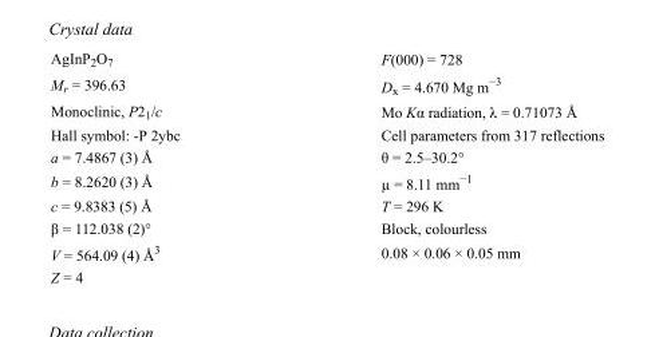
<table><tbody><tr><td>AgInP<sub>2</sub>O<sub>7</sub></td><td>F(000) = 728</td></tr><tr><td>M<sub>r</sub> = 396.63</td><td>D<sub>x</sub> = 4.670 Mg m<sup>−3</sup></td></tr><tr><td>Monoclinic, P2<sub>1</sub>/c</td><td>Mo Kα radiation, λ = 0.71073 Å</td></tr><tr><td>Hall symbol: -P 2ybc</td><td>Cell parameters from 317 reflections</td></tr><tr><td>a = 7.4867 (3) Å</td><td>θ = 2.5–30.2°</td></tr><tr><td>b = 8.2620 (3) Å</td><td>µ = 8.11 mm<sup>−1</sup></td></tr><tr><td>c = 9.8383 (5) Å</td><td>T = 296 K</td></tr><tr><td>β = 112.038 (2)°</td><td>Block, colourless</td></tr><tr><td>V = 564.09 (4) Å<sup>3</sup></td><td>0.08 × 0.06 × 0.05 mm</td></tr><tr><td>Z = 4</td><td></td></tr></tbody></table>